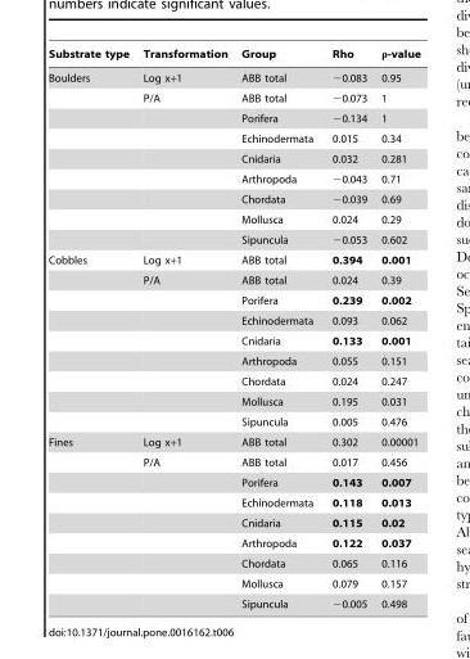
<table><thead><tr><td>Substrate type</td><td>Transformation</td><td>Group</td><td>Rho</td><td>ρ-value</td></tr></thead><tbody><tr><td rowspan="9">Boulders</td><td>Log x+1</td><td>ABB total</td><td>−0.083</td><td>0.95</td></tr><tr><td>P/A</td><td>ABB total</td><td>−0.073</td><td>1</td></tr><tr><td></td><td>Porifera</td><td>−0.134</td><td>1</td></tr><tr><td></td><td>Echinodermata</td><td>0.015</td><td>0.34</td></tr><tr><td></td><td>Cnidaria</td><td>0.032</td><td>0.281</td></tr><tr><td></td><td>Arthropoda</td><td>−0.043</td><td>0.71</td></tr><tr><td></td><td>Chordata</td><td>−0.039</td><td>0.69</td></tr><tr><td></td><td>Mollusca</td><td>0.024</td><td>0.29</td></tr><tr><td></td><td>Sipuncula</td><td>−0.053</td><td>0.602</td></tr><tr><td rowspan="9">Cobbles</td><td>Log x+1</td><td>ABB total</td><td>0.394</td><td>0.001</td></tr><tr><td>P/A</td><td>ABB total</td><td>0.024</td><td>0.39</td></tr><tr><td></td><td>Porifera</td><td>0.239</td><td>0.002</td></tr><tr><td></td><td>Echinodermata</td><td>0.093</td><td>0.062</td></tr><tr><td></td><td>Cnidaria</td><td>0.133</td><td>0.001</td></tr><tr><td></td><td>Arthropoda</td><td>0.055</td><td>0.151</td></tr><tr><td></td><td>Chordata</td><td>0.024</td><td>0.247</td></tr><tr><td></td><td>Mollusca</td><td>0.195</td><td>0.031</td></tr><tr><td></td><td>Sipuncula</td><td>0.005</td><td>0.476</td></tr><tr><td rowspan="9">Fines</td><td>Log x+1</td><td>ABB total</td><td>0.302</td><td>0.00001</td></tr><tr><td>P/A</td><td>ABB total</td><td>0.017</td><td>0.456</td></tr><tr><td></td><td>Porifera</td><td>0.143</td><td>0.007</td></tr><tr><td></td><td>Echinodermata</td><td>0.118</td><td>0.013</td></tr><tr><td></td><td>Cnidaria</td><td>0.115</td><td>0.02</td></tr><tr><td></td><td>Arthropoda</td><td>0.122</td><td>0.037</td></tr><tr><td></td><td>Chordata</td><td>0.065</td><td>0.116</td></tr><tr><td></td><td>Mollusca</td><td>0.079</td><td>0.157</td></tr><tr><td></td><td>Sipuncula</td><td>−0.005</td><td>0.498</td></tr></tbody></table>